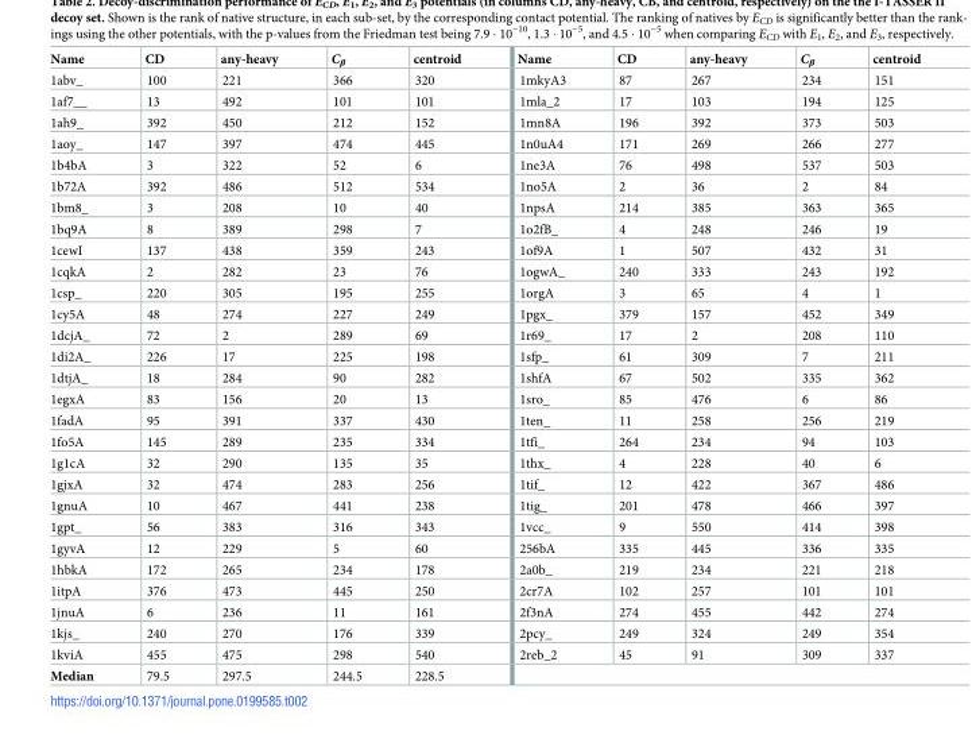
<table><thead><tr><td>Name</td><td>CD</td><td>any-heavy</td><td>C<sub>β</sub></td><td>centroid</td><td>Name</td><td>CD</td><td>any-heavy</td><td>C<sub>β</sub></td><td>centroid</td></tr></thead><tbody><tr><td>1abv_</td><td>100</td><td>221</td><td>366</td><td>320</td><td>1mkyA3</td><td>87</td><td>267</td><td>234</td><td>151</td></tr><tr><td>1af7__</td><td>13</td><td>492</td><td>101</td><td>101</td><td>1mla_2</td><td>17</td><td>103</td><td>194</td><td>125</td></tr><tr><td>1ah9_</td><td>392</td><td>450</td><td>212</td><td>152</td><td>1mn8A</td><td>196</td><td>392</td><td>373</td><td>503</td></tr><tr><td>1aoy_</td><td>147</td><td>397</td><td>474</td><td>445</td><td>1n0uA4</td><td>171</td><td>269</td><td>266</td><td>277</td></tr><tr><td>1b4bA</td><td>3</td><td>322</td><td>52</td><td>6</td><td>1ne3A</td><td>76</td><td>498</td><td>537</td><td>503</td></tr><tr><td>1b72A</td><td>392</td><td>486</td><td>512</td><td>534</td><td>1no5A</td><td>2</td><td>36</td><td>2</td><td>84</td></tr><tr><td>1bm8_</td><td>3</td><td>208</td><td>10</td><td>40</td><td>1npsA</td><td>214</td><td>385</td><td>363</td><td>365</td></tr><tr><td>1bq9A</td><td>8</td><td>389</td><td>298</td><td>7</td><td>1o2fB_</td><td>4</td><td>248</td><td>246</td><td>19</td></tr><tr><td>1cewI</td><td>137</td><td>438</td><td>359</td><td>243</td><td>1of9A</td><td>1</td><td>507</td><td>432</td><td>31</td></tr><tr><td>1cqkA</td><td>2</td><td>282</td><td>23</td><td>76</td><td>1ogwA_</td><td>240</td><td>333</td><td>243</td><td>192</td></tr><tr><td>1csp_</td><td>220</td><td>305</td><td>195</td><td>255</td><td>1orgA</td><td>3</td><td>65</td><td>4</td><td>1</td></tr><tr><td>1cy5A</td><td>48</td><td>274</td><td>227</td><td>249</td><td>1pgx_</td><td>379</td><td>157</td><td>452</td><td>349</td></tr><tr><td>1dcjA_</td><td>72</td><td>2</td><td>289</td><td>69</td><td>1r69_</td><td>17</td><td>2</td><td>208</td><td>110</td></tr><tr><td>1di2A_</td><td>226</td><td>17</td><td>225</td><td>198</td><td>1sfp_</td><td>61</td><td>309</td><td>7</td><td>211</td></tr><tr><td>1dtjA_</td><td>18</td><td>284</td><td>90</td><td>282</td><td>1shfA</td><td>67</td><td>502</td><td>335</td><td>362</td></tr><tr><td>1egxA</td><td>83</td><td>156</td><td>20</td><td>13</td><td>1sro_</td><td>85</td><td>476</td><td>6</td><td>86</td></tr><tr><td>1fadA</td><td>95</td><td>391</td><td>337</td><td>430</td><td>1ten_</td><td>11</td><td>258</td><td>256</td><td>219</td></tr><tr><td>1fo5A</td><td>145</td><td>289</td><td>235</td><td>334</td><td>1tfi_</td><td>264</td><td>234</td><td>94</td><td>103</td></tr><tr><td>1g1cA</td><td>32</td><td>290</td><td>135</td><td>35</td><td>1thx_</td><td>4</td><td>228</td><td>40</td><td>6</td></tr><tr><td>1gjxA</td><td>32</td><td>474</td><td>283</td><td>256</td><td>1tif_</td><td>12</td><td>422</td><td>367</td><td>486</td></tr><tr><td>1gnuA</td><td>10</td><td>467</td><td>441</td><td>238</td><td>1tig_</td><td>201</td><td>478</td><td>466</td><td>397</td></tr><tr><td>1gpt_</td><td>56</td><td>383</td><td>316</td><td>343</td><td>1vcc_</td><td>9</td><td>550</td><td>414</td><td>398</td></tr><tr><td>1gyvA</td><td>12</td><td>229</td><td>5</td><td>60</td><td>256bA</td><td>335</td><td>445</td><td>336</td><td>335</td></tr><tr><td>1hbkA</td><td>172</td><td>265</td><td>234</td><td>178</td><td>2a0b_</td><td>219</td><td>234</td><td>221</td><td>218</td></tr><tr><td>1itpA</td><td>376</td><td>473</td><td>445</td><td>250</td><td>2cr7A</td><td>102</td><td>257</td><td>101</td><td>101</td></tr><tr><td>1jnuA</td><td>6</td><td>236</td><td>11</td><td>161</td><td>2f3nA</td><td>274</td><td>455</td><td>442</td><td>274</td></tr><tr><td>1kjs_</td><td>240</td><td>270</td><td>176</td><td>339</td><td>2pcy_</td><td>249</td><td>324</td><td>249</td><td>354</td></tr><tr><td>1kviA</td><td>455</td><td>475</td><td>298</td><td>540</td><td>2reb_2</td><td>45</td><td>91</td><td>309</td><td>337</td></tr><tr><td>Median</td><td>79.5</td><td>297.5</td><td>244.5</td><td>228.5</td><td colspan="5"></td></tr></tbody></table>